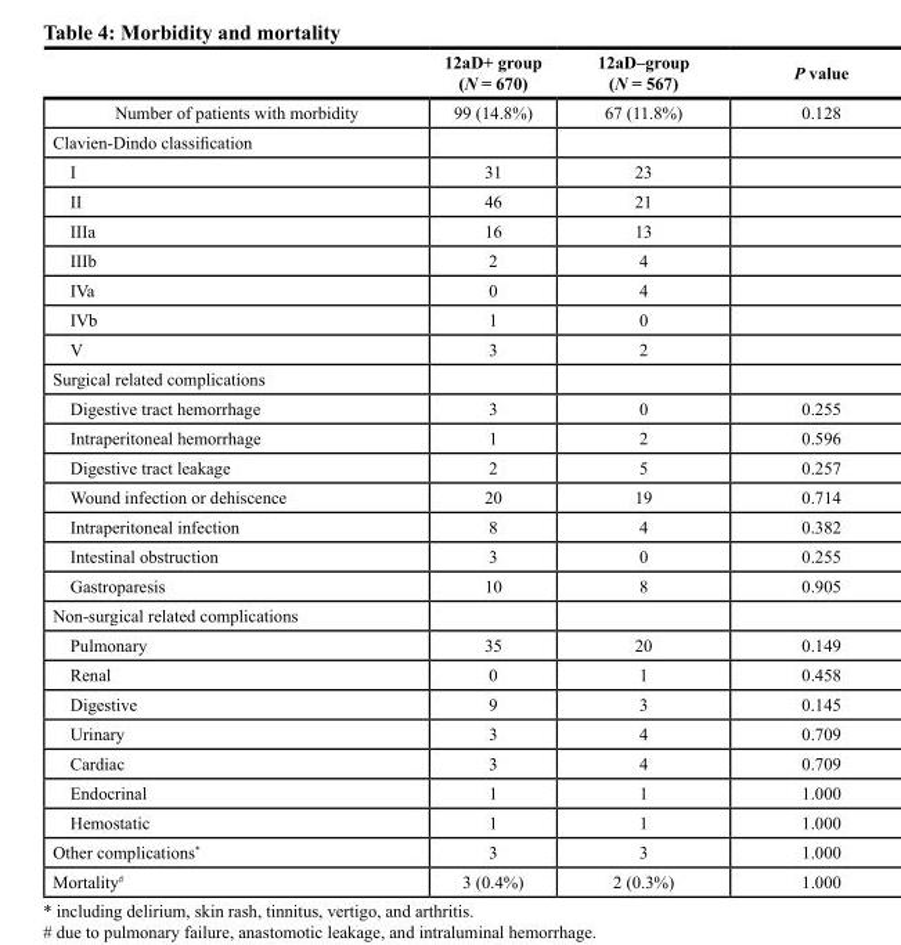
<table><thead><tr><td></td><td>12aD+ group (N = 670)</td><td>12aD–group (N = 567)</td><td>P value</td></tr></thead><tbody><tr><td>Number of patients with morbidity</td><td>99 (14.8%)</td><td>67 (11.8%)</td><td>0.128</td></tr><tr><td colspan="4">Clavien-Dindo classification</td></tr><tr><td>I</td><td>31</td><td>23</td><td></td></tr><tr><td>II</td><td>46</td><td>21</td><td></td></tr><tr><td>IIIa</td><td>16</td><td>13</td><td></td></tr><tr><td>IIIb</td><td>2</td><td>4</td><td></td></tr><tr><td>IVa</td><td>0</td><td>4</td><td></td></tr><tr><td>IVb</td><td>1</td><td>0</td><td></td></tr><tr><td>V</td><td>3</td><td>2</td><td></td></tr><tr><td colspan="4">Surgical related complications</td></tr><tr><td>Digestive tract hemorrhage</td><td>3</td><td>0</td><td>0.255</td></tr><tr><td>Intraperitoneal hemorrhage</td><td>1</td><td>2</td><td>0.596</td></tr><tr><td>Digestive tract leakage</td><td>2</td><td>5</td><td>0.257</td></tr><tr><td>Wound infection or dehiscence</td><td>20</td><td>19</td><td>0.714</td></tr><tr><td>Intraperitoneal infection</td><td>8</td><td>4</td><td>0.382</td></tr><tr><td>Intestinal obstruction</td><td>3</td><td>0</td><td>0.255</td></tr><tr><td>Gastroparesis</td><td>10</td><td>8</td><td>0.905</td></tr><tr><td colspan="4">Non-surgical related complications</td></tr><tr><td>Pulmonary</td><td>35</td><td>20</td><td>0.149</td></tr><tr><td>Renal</td><td>0</td><td>1</td><td>0.458</td></tr><tr><td>Digestive</td><td>9</td><td>3</td><td>0.145</td></tr><tr><td>Urinary</td><td>3</td><td>4</td><td>0.709</td></tr><tr><td>Cardiac</td><td>3</td><td>4</td><td>0.709</td></tr><tr><td>Endocrinal</td><td>1</td><td>1</td><td>1.000</td></tr><tr><td>Hemostatic</td><td>1</td><td>1</td><td>1.000</td></tr><tr><td>Other complications*</td><td>3</td><td>3</td><td>1.000</td></tr><tr><td>Mortality#</td><td>3 (0.4%)</td><td>2 (0.3%)</td><td>1.000</td></tr></tbody></table>